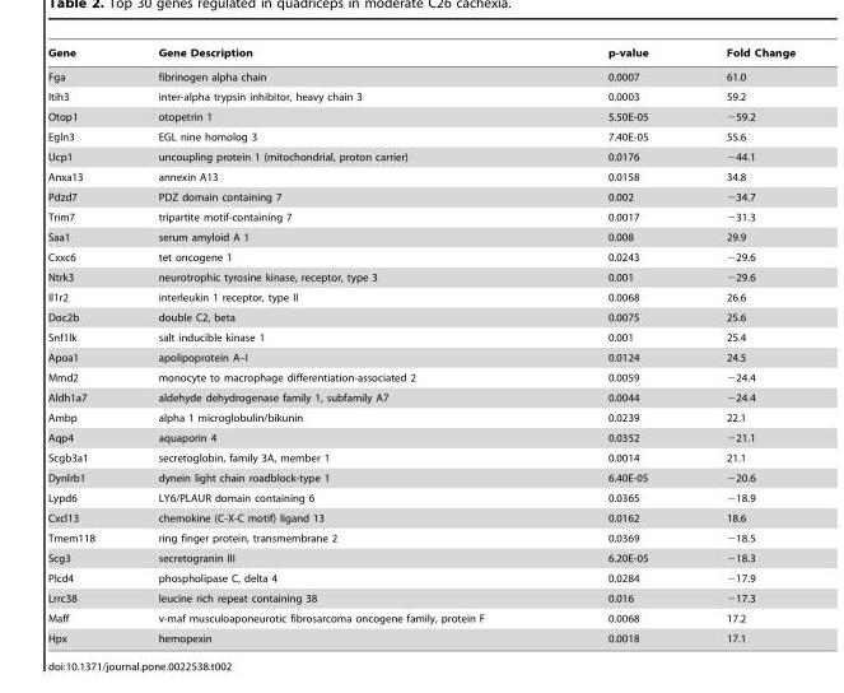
<table><thead><tr><td>Gene</td><td>Gene Description</td><td>p-value</td><td>Fold Change</td></tr></thead><tbody><tr><td>Fga</td><td>fibrinogen alpha chain</td><td>0.0007</td><td>61.0</td></tr><tr><td>Itih3</td><td>inter-alpha trypsin inhibitor, heavy chain 3</td><td>0.0003</td><td>59.2</td></tr><tr><td>Otop1</td><td>otopetrin 1</td><td>5.50E-05</td><td>−59.2</td></tr><tr><td>Egln3</td><td>EGL nine homolog 3</td><td>7.40E-05</td><td>55.6</td></tr><tr><td>Ucp1</td><td>uncoupling protein 1 (mitochondrial, proton carrier)</td><td>0.0176</td><td>−44.1</td></tr><tr><td>Anxa13</td><td>annexin A13</td><td>0.0158</td><td>34.8</td></tr><tr><td>Pdzd7</td><td>PDZ domain containing 7</td><td>0.002</td><td>−34.7</td></tr><tr><td>Trim7</td><td>tripartite motif-containing 7</td><td>0.0017</td><td>−31.3</td></tr><tr><td>Saa1</td><td>serum amyloid A 1</td><td>0.008</td><td>29.9</td></tr><tr><td>Cxxc6</td><td>tet oncogene 1</td><td>0.0243</td><td>−29.6</td></tr><tr><td>Ntrk3</td><td>neurotrophic tyrosine kinase, receptor, type 3</td><td>0.001</td><td>−29.6</td></tr><tr><td>Il1r2</td><td>interleukin 1 receptor, type II</td><td>0.0068</td><td>26.6</td></tr><tr><td>Doc2b</td><td>double C2, beta</td><td>0.0075</td><td>25.6</td></tr><tr><td>Snf1lk</td><td>salt inducible kinase 1</td><td>0.001</td><td>25.4</td></tr><tr><td>Apoa1</td><td>apolipoprotein A–I</td><td>0.0124</td><td>24.5</td></tr><tr><td>Mmd2</td><td>monocyte to macrophage differentiation-associated 2</td><td>0.0059</td><td>−24.4</td></tr><tr><td>Aldh1a7</td><td>aldehyde dehydrogenase family 1, subfamily A7</td><td>0.0044</td><td>−24.4</td></tr><tr><td>Ambp</td><td>alpha 1 microglobulin/bikunin</td><td>0.0239</td><td>22.1</td></tr><tr><td>Aqp4</td><td>aquaporin 4</td><td>0.0352</td><td>−21.1</td></tr><tr><td>Scgb3a1</td><td>secretoglobin, family 3A, member 1</td><td>0.0014</td><td>21.1</td></tr><tr><td>Dynlrb1</td><td>dynein light chain roadblock-type 1</td><td>6.40E-05</td><td>−20.6</td></tr><tr><td>Lypd6</td><td>LY6/PLAUR domain containing 6</td><td>0.0365</td><td>−18.9</td></tr><tr><td>Cxcl13</td><td>chemokine (C-X-C motif) ligand 13</td><td>0.0162</td><td>18.6</td></tr><tr><td>Tmem118</td><td>ring finger protein, transmembrane 2</td><td>0.0369</td><td>−18.5</td></tr><tr><td>Scg3</td><td>secretogranin III</td><td>6.20E-05</td><td>−18.3</td></tr><tr><td>Plcd4</td><td>phospholipase C, delta 4</td><td>0.0284</td><td>−17.9</td></tr><tr><td>Lrrc38</td><td>leucine rich repeat containing 38</td><td>0.016</td><td>−17.3</td></tr><tr><td>Maff</td><td>v-maf musculoaponeurotic fibrosarcoma oncogene family, protein F</td><td>0.0068</td><td>17.2</td></tr><tr><td>Hpx</td><td>hemopexin</td><td>0.0018</td><td>17.1</td></tr></tbody></table>